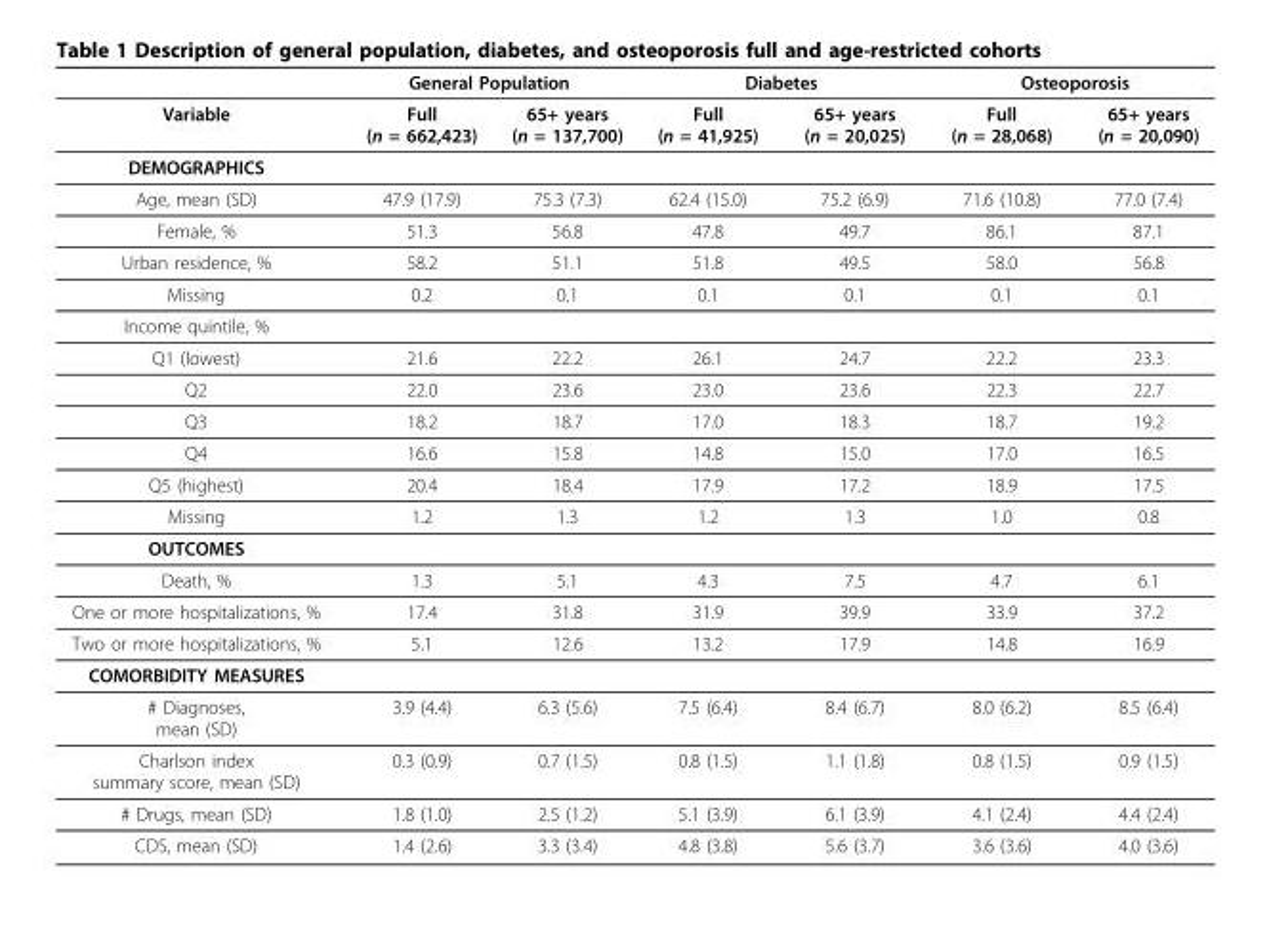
<table><thead><tr><td rowspan="2">Variable</td><td colspan="2">General Population</td><td colspan="2">Diabetes</td><td colspan="2">Osteoporosis</td></tr><tr><td>Full (n = 662,423)</td><td>65+ years (n = 137,700)</td><td>Full (n = 41,925)</td><td>65+ years (n = 20,025)</td><td>Full (n = 28,068)</td><td>65+ years (n = 20,090)</td></tr></thead><tbody><tr><td colspan="7">DEMOGRAPHICS</td></tr><tr><td>Age, mean (SD)</td><td>47.9 (17.9)</td><td>75.3 (7.3)</td><td>62.4 (15.0)</td><td>75.2 (6.9)</td><td>71.6 (10.8)</td><td>77.0 (7.4)</td></tr><tr><td>Female, %</td><td>51.3</td><td>56.8</td><td>47.8</td><td>49.7</td><td>86.1</td><td>87.1</td></tr><tr><td>Urban residence, %</td><td>58.2</td><td>51.1</td><td>51.8</td><td>49.5</td><td>58.0</td><td>56.8</td></tr><tr><td>Missing</td><td>0.2</td><td>0.1</td><td>0.1</td><td>0.1</td><td>0.1</td><td>0.1</td></tr><tr><td colspan="7">Income quintile, %</td></tr><tr><td>Q1 (lowest)</td><td>21.6</td><td>22.2</td><td>26.1</td><td>24.7</td><td>22.2</td><td>23.3</td></tr><tr><td>Q2</td><td>22.0</td><td>23.6</td><td>23.0</td><td>23.6</td><td>22.3</td><td>22.7</td></tr><tr><td>Q3</td><td>18.2</td><td>18.7</td><td>17.0</td><td>18.3</td><td>18.7</td><td>19.2</td></tr><tr><td>Q4</td><td>16.6</td><td>15.8</td><td>14.8</td><td>15.0</td><td>17.0</td><td>16.5</td></tr><tr><td>Q5 (highest)</td><td>20.4</td><td>18.4</td><td>17.9</td><td>17.2</td><td>18.9</td><td>17.5</td></tr><tr><td>Missing</td><td>1.2</td><td>1.3</td><td>1.2</td><td>1.3</td><td>1.0</td><td>0.8</td></tr><tr><td colspan="7">OUTCOMES</td></tr><tr><td>Death, %</td><td>1.3</td><td>5.1</td><td>4.3</td><td>7.5</td><td>4.7</td><td>6.1</td></tr><tr><td>One or more hospitalizations, %</td><td>17.4</td><td>31.8</td><td>31.9</td><td>39.9</td><td>33.9</td><td>37.2</td></tr><tr><td>Two or more hospitalizations, %</td><td>5.1</td><td>12.6</td><td>13.2</td><td>17.9</td><td>14.8</td><td>16.9</td></tr><tr><td colspan="7">COMORBIDITY MEASURES</td></tr><tr><td># Diagnoses, mean (SD)</td><td>3.9 (4.4)</td><td>6.3 (5.6)</td><td>7.5 (6.4)</td><td>8.4 (6.7)</td><td>8.0 (6.2)</td><td>8.5 (6.4)</td></tr><tr><td>Charlson index summary score, mean (SD)</td><td>0.3 (0.9)</td><td>0.7 (1.5)</td><td>0.8 (1.5)</td><td>1.1 (1.8)</td><td>0.8 (1.5)</td><td>0.9 (1.5)</td></tr><tr><td># Drugs, mean (SD)</td><td>1.8 (1.0)</td><td>2.5 (1.2)</td><td>5.1 (3.9)</td><td>6.1 (3.9)</td><td>4.1 (2.4)</td><td>4.4 (2.4)</td></tr><tr><td>CDS, mean (SD)</td><td>1.4 (2.6)</td><td>3.3 (3.4)</td><td>4.8 (3.8)</td><td>5.6 (3.7)</td><td>3.6 (3.6)</td><td>4.0 (3.6)</td></tr></tbody></table>